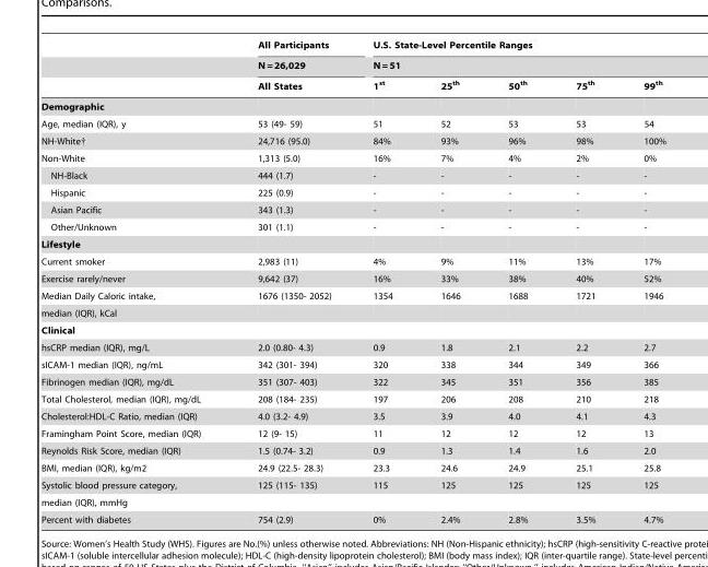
<table><thead><tr><td rowspan="3"></td><td rowspan="3">All Participants N = 26,029 All States</td><td rowspan="2" colspan="5">U.S. State-Level Percentile Ranges N = 51</td></tr><tr></tr><tr><td>1<sup>st</sup></td><td>25<sup>th</sup></td><td>50<sup>th</sup></td><td>75<sup>th</sup></td><td>99<sup>th</sup></td></tr></thead><tbody><tr><td colspan="7">Demographic</td></tr><tr><td>Age, median (IQR), y</td><td>53 (49- 59)</td><td>51</td><td>52</td><td>53</td><td>53</td><td>54</td></tr><tr><td>NH-White†</td><td>24,716 (95.0)</td><td>84%</td><td>93%</td><td>96%</td><td>98%</td><td>100%</td></tr><tr><td>Non-White</td><td>1,313 (5.0)</td><td>16%</td><td>7%</td><td>4%</td><td>2%</td><td>0%</td></tr><tr><td>NH-Black</td><td>444 (1.7)</td><td>-</td><td>-</td><td>-</td><td>-</td><td>-</td></tr><tr><td>Hispanic</td><td>225 (0.9)</td><td>-</td><td>-</td><td>-</td><td>-</td><td>-</td></tr><tr><td>Asian Pacific</td><td>343 (1.3)</td><td>-</td><td>-</td><td>-</td><td>-</td><td>-</td></tr><tr><td>Other/Unknown</td><td>301 (1.1)</td><td>-</td><td>-</td><td>-</td><td>-</td><td>-</td></tr><tr><td colspan="7">Lifestyle</td></tr><tr><td>Current smoker</td><td>2,983 (11)</td><td>4%</td><td>9%</td><td>11%</td><td>13%</td><td>17%</td></tr><tr><td>Exercise rarely/never</td><td>9,642 (37)</td><td>16%</td><td>33%</td><td>38%</td><td>40%</td><td>52%</td></tr><tr><td>Median Daily Caloric intake,</td><td>1676 (1350- 2052)</td><td>1354</td><td>1646</td><td>1688</td><td>1721</td><td>1946</td></tr><tr><td colspan="7">median (IQR), kCal</td></tr><tr><td colspan="7">Clinical</td></tr><tr><td>hsCRP median (IQR), mg/L</td><td>2.0 (0.80- 4.3)</td><td>0.9</td><td>1.8</td><td>2.1</td><td>2.2</td><td>2.7</td></tr><tr><td>sICAM-1 median (IQR), ng/mL</td><td>342 (301- 394)</td><td>320</td><td>338</td><td>344</td><td>349</td><td>366</td></tr><tr><td>Fibrinogen median (IQR), mg/dL</td><td>351 (307- 403)</td><td>322</td><td>345</td><td>351</td><td>356</td><td>385</td></tr><tr><td>Total Cholesterol, median (IQR), mg/dL</td><td>208 (184- 235)</td><td>197</td><td>206</td><td>208</td><td>210</td><td>218</td></tr><tr><td>Cholesterol:HDL-C Ratio, median (IQR)</td><td>4.0 (3.2- 4.9)</td><td>3.5</td><td>3.9</td><td>4.0</td><td>4.1</td><td>4.3</td></tr><tr><td>Framingham Point Score, median (IQR)</td><td>12 (9- 15)</td><td>11</td><td>12</td><td>12</td><td>12</td><td>13</td></tr><tr><td>Reynolds Risk Score, median (IQR)</td><td>1.5 (0.74- 3.2)</td><td>0.9</td><td>1.3</td><td>1.4</td><td>1.6</td><td>2.0</td></tr><tr><td>BMI, median (IQR), kg/m2</td><td>24.9 (22.5- 28.3)</td><td>23.3</td><td>24.6</td><td>24.9</td><td>25.1</td><td>25.8</td></tr><tr><td>Systolic blood pressure category,</td><td>125 (115- 135)</td><td>115</td><td>125</td><td>125</td><td>125</td><td>125</td></tr><tr><td colspan="7">median (IQR), mmHg</td></tr><tr><td>Percent with diabetes</td><td>754 (2.9)</td><td>0%</td><td>2.4%</td><td>2.8%</td><td>3.5%</td><td>4.7%</td></tr></tbody></table>